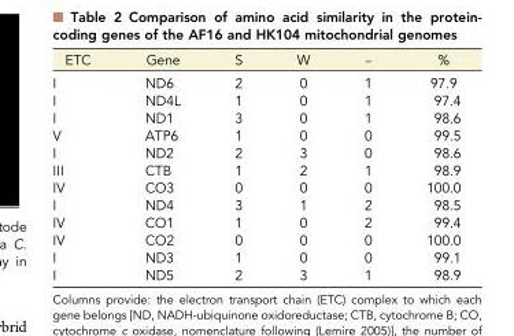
<table><thead><tr><td>ETC</td><td>Gene</td><td>S</td><td>W</td><td>–</td><td>%</td></tr></thead><tbody><tr><td>I</td><td>ND6</td><td>2</td><td>0</td><td>1</td><td>97.9</td></tr><tr><td>I</td><td>ND4L</td><td>1</td><td>0</td><td>1</td><td>97.4</td></tr><tr><td>I</td><td>ND1</td><td>3</td><td>0</td><td>1</td><td>98.6</td></tr><tr><td>V</td><td>ATP6</td><td>1</td><td>0</td><td>0</td><td>99.5</td></tr><tr><td>I</td><td>ND2</td><td>2</td><td>3</td><td>0</td><td>98.6</td></tr><tr><td>III</td><td>CTB</td><td>1</td><td>2</td><td>1</td><td>98.9</td></tr><tr><td>IV</td><td>CO3</td><td>0</td><td>0</td><td>0</td><td>100.0</td></tr><tr><td>I</td><td>ND4</td><td>3</td><td>1</td><td>2</td><td>98.5</td></tr><tr><td>IV</td><td>CO1</td><td>1</td><td>0</td><td>2</td><td>99.4</td></tr><tr><td>IV</td><td>CO2</td><td>0</td><td>0</td><td>0</td><td>100.0</td></tr><tr><td>I</td><td>ND3</td><td>1</td><td>0</td><td>0</td><td>99.1</td></tr><tr><td>I</td><td>ND5</td><td>2</td><td>3</td><td>1</td><td>98.9</td></tr></tbody></table>